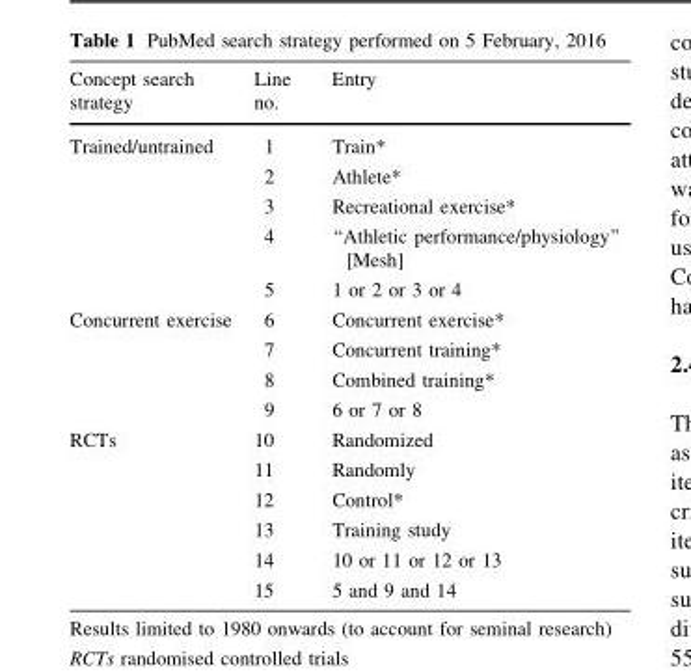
<table><thead><tr><td>Concept search strategy</td><td>Line no.</td><td>Entry</td></tr></thead><tbody><tr><td rowspan="5">Trained/untrained</td><td>1</td><td>Train*</td></tr><tr><td>2</td><td>Athlete*</td></tr><tr><td>3</td><td>Recreational exercise*</td></tr><tr><td>4</td><td>‘‘Athletic performance/physiology’’ [Mesh]</td></tr><tr><td>5</td><td>1 or 2 or 3 or 4</td></tr><tr><td rowspan="4">Concurrent exercise</td><td>6</td><td>Concurrent exercise*</td></tr><tr><td>7</td><td>Concurrent training*</td></tr><tr><td>8</td><td>Combined training*</td></tr><tr><td>9</td><td>6 or 7 or 8</td></tr><tr><td rowspan="6">RCTs</td><td>10</td><td>Randomized</td></tr><tr><td>11</td><td>Randomly</td></tr><tr><td>12</td><td>Control*</td></tr><tr><td>13</td><td>Training study</td></tr><tr><td>14</td><td>10 or 11 or 12 or 13</td></tr><tr><td>15</td><td>5 and 9 and 14</td></tr></tbody></table>